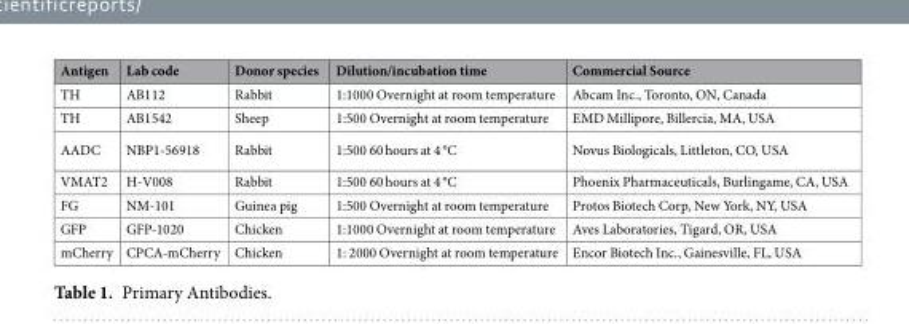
<table><thead><tr><td>Antigen</td><td>Lab code</td><td>Donor species</td><td>Dilution/incubation time</td><td>Commercial Source</td></tr></thead><tbody><tr><td>TH</td><td>AB112</td><td>Rabbit</td><td>1:1000 Overnight at room temperature</td><td>Abcam Inc., Toronto, ON, Canada</td></tr><tr><td>TH</td><td>AB1542</td><td>Sheep</td><td>1:500 Overnight at room temperature</td><td>EMD Millipore, Billercia, MA, USA</td></tr><tr><td>AADC</td><td>NBP1-56918</td><td>Rabbit</td><td>1:500 60 hours at 4 °C</td><td>Novus Biologicals, Littleton, CO, USA</td></tr><tr><td>VMAT2</td><td>H-V008</td><td>Rabbit</td><td>1:500 60 hours at 4 °C</td><td>Phoenix Pharmaceuticals, Burlingame, CA, USA</td></tr><tr><td>FG</td><td>NM-101</td><td>Guinea pig</td><td>1:500 Overnight at room temperature</td><td>Protos Biotech Corp, New York, NY, USA</td></tr><tr><td>GFP</td><td>GFP-1020</td><td>Chicken</td><td>1:1000 Overnight at room temperature</td><td>Aves Laboratories, Tigard, OR, USA</td></tr><tr><td>mCherry</td><td>CPCA-mCherry</td><td>Chicken</td><td>1: 2000 Overnight at room temperature</td><td>Encor Biotech Inc., Gainesville, FL, USA</td></tr></tbody></table>